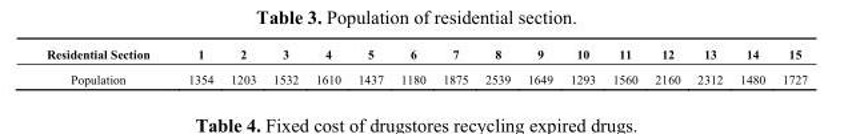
<table><thead><tr><td>Residential Section</td><td>1</td><td>2</td><td>3</td><td>4</td><td>5</td><td>6</td><td>7</td><td>8</td><td>9</td><td>10</td><td>11</td><td>12</td><td>13</td><td>14</td><td>15</td></tr></thead><tbody><tr><td>Population</td><td>1354</td><td>1203</td><td>1532</td><td>1610</td><td>1437</td><td>1180</td><td>1875</td><td>2539</td><td>1649</td><td>1293</td><td>1560</td><td>2160</td><td>2312</td><td>1480</td><td>1727</td></tr></tbody></table>